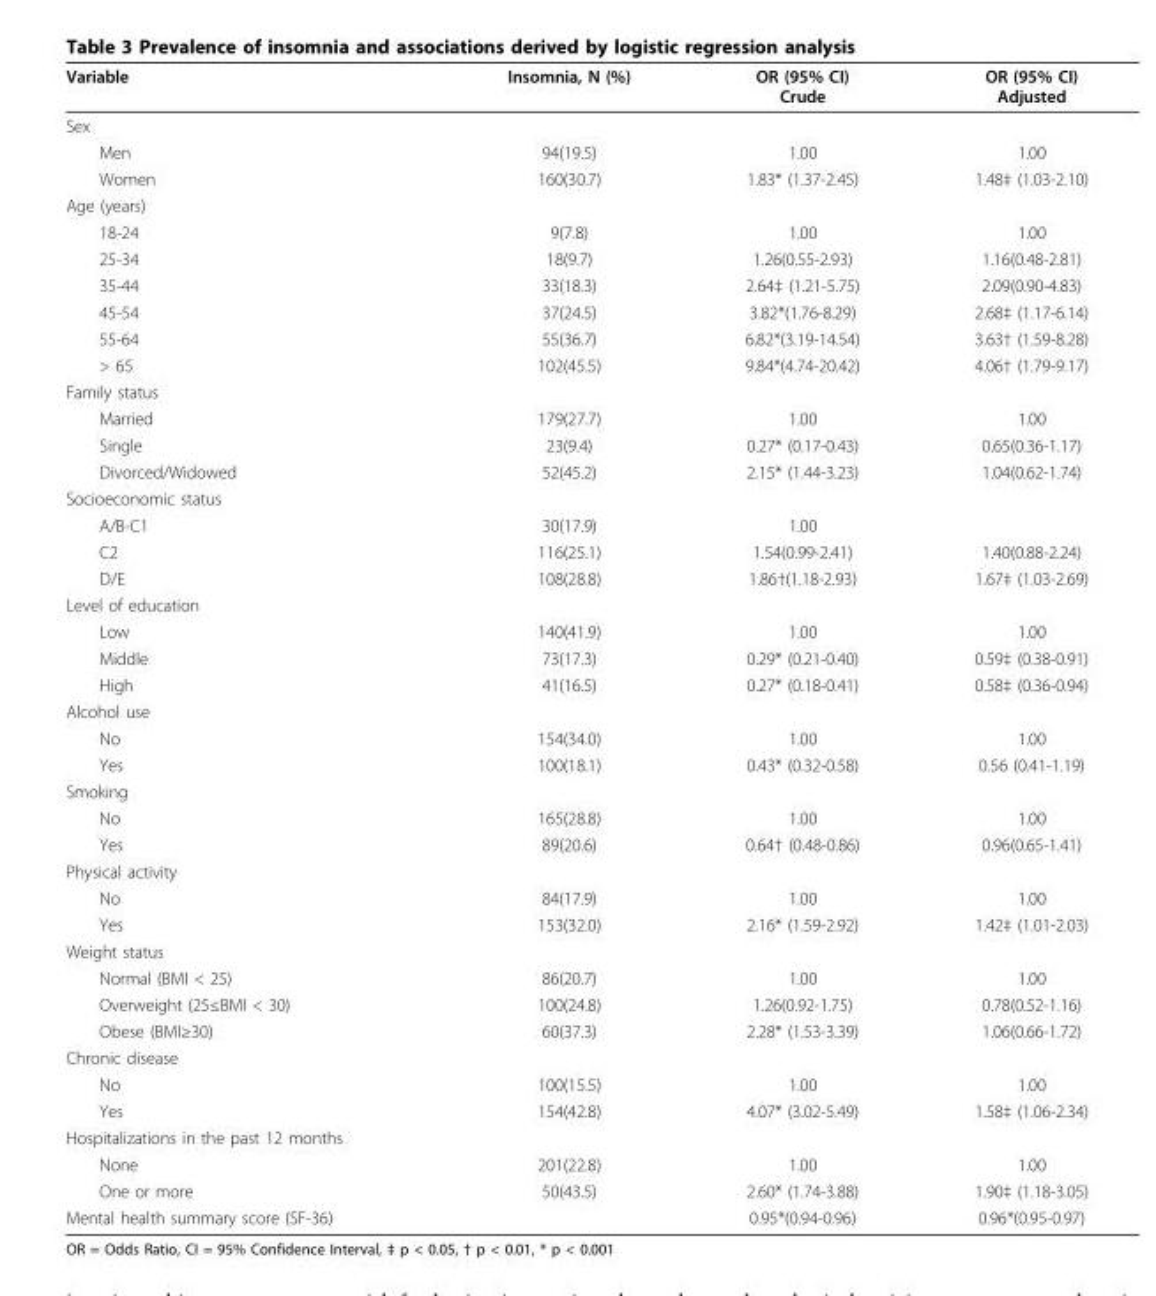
<table><thead><tr><td>Variable</td><td>Insomnia, N (%)</td><td>OR (95% CI) Crude</td><td>OR (95% CI) Adjusted</td></tr></thead><tbody><tr><td colspan="4">Sex</td></tr><tr><td>Men</td><td>94(19.5)</td><td>1.00</td><td>1.00</td></tr><tr><td>Women</td><td>160(30.7)</td><td>1.83* (1.37-2.45)</td><td>1.48‡ (1.03-2.10)</td></tr><tr><td colspan="4">Age (years)</td></tr><tr><td>18-24</td><td>9(7.8)</td><td>1.00</td><td>1.00</td></tr><tr><td>25-34</td><td>18(9.7)</td><td>1.26(0.55-2.93)</td><td>1.16(0.48-2.81)</td></tr><tr><td>35-44</td><td>33(18.3)</td><td>2.64‡ (1.21-5.75)</td><td>2.09(0.90-4.83)</td></tr><tr><td>45-54</td><td>37(24.5)</td><td>3.82*(1.76-8.29)</td><td>2.68‡ (1.17-6.14)</td></tr><tr><td>55-64</td><td>55(36.7)</td><td>6.82*(3.19-14.54)</td><td>3.63† (1.59-8.28)</td></tr><tr><td>&gt; 65</td><td>102(45.5)</td><td>9.84*(4.74-20.42)</td><td>4.06† (1.79-9.17)</td></tr><tr><td colspan="4">Family status</td></tr><tr><td>Married</td><td>179(27.7)</td><td>1.00</td><td>1.00</td></tr><tr><td>Single</td><td>23(9.4)</td><td>0.27* (0.17-0.43)</td><td>0.65(0.36-1.17)</td></tr><tr><td>Divorced/Widowed</td><td>52(45.2)</td><td>2.15* (1.44-3.23)</td><td>1.04(0.62-1.74)</td></tr><tr><td colspan="4">Socioeconomic status</td></tr><tr><td>A/B-C1</td><td>30(17.9)</td><td>1.00</td><td></td></tr><tr><td>C2</td><td>116(25.1)</td><td>1.54(0.99-2.41)</td><td>1.40(0.88-2.24)</td></tr><tr><td>D/E</td><td>108(28.8)</td><td>1.86†(1.18-2.93)</td><td>1.67‡ (1.03-2.69)</td></tr><tr><td colspan="4">Level of education</td></tr><tr><td>Low</td><td>140(41.9)</td><td>1.00</td><td>1.00</td></tr><tr><td>Middle</td><td>73(17.3)</td><td>0.29* (0.21-0.40)</td><td>0.59‡ (0.38-0.91)</td></tr><tr><td>High</td><td>41(16.5)</td><td>0.27* (0.18-0.41)</td><td>0.58‡ (0.36-0.94)</td></tr><tr><td colspan="4">Alcohol use</td></tr><tr><td>No</td><td>154(34.0)</td><td>1.00</td><td>1.00</td></tr><tr><td>Yes</td><td>100(18.1)</td><td>0.43* (0.32-0.58)</td><td>0.56 (0.41-1.19)</td></tr><tr><td colspan="4">Smoking</td></tr><tr><td>No</td><td>165(28.8)</td><td>1.00</td><td>1.00</td></tr><tr><td>Yes</td><td>89(20.6)</td><td>0.64† (0.48-0.86)</td><td>0.96(0.65-1.41)</td></tr><tr><td colspan="4">Physical activity</td></tr><tr><td>No</td><td>84(17.9)</td><td>1.00</td><td>1.00</td></tr><tr><td>Yes</td><td>153(32.0)</td><td>2.16* (1.59-2.92)</td><td>1.42‡ (1.01-2.03)</td></tr><tr><td colspan="4">Weight status</td></tr><tr><td>Normal (BMI &lt; 25)</td><td>86(20.7)</td><td>1.00</td><td>1.00</td></tr><tr><td>Overweight (25≤BMI &lt; 30)</td><td>100(24.8)</td><td>1.26(0.92-1.75)</td><td>0.78(0.52-1.16)</td></tr><tr><td>Obese (BMI≥30)</td><td>60(37.3)</td><td>2.28* (1.53-3.39)</td><td>1.06(0.66-1.72)</td></tr><tr><td colspan="4">Chronic disease</td></tr><tr><td>No</td><td>100(15.5)</td><td>1.00</td><td>1.00</td></tr><tr><td>Yes</td><td>154(42.8)</td><td>4.07* (3.02-5.49)</td><td>1.58‡ (1.06-2.34)</td></tr><tr><td colspan="4">Hospitalizations in the past 12 months</td></tr><tr><td>None</td><td>201(22.8)</td><td>1.00</td><td>1.00</td></tr><tr><td>One or more</td><td>50(43.5)</td><td>2.60* (1.74-3.88)</td><td>1.90‡ (1.18-3.05)</td></tr><tr><td>Mental health summary score (SF-36)</td><td></td><td>0.95*(0.94-0.96)</td><td>0.96*(0.95-0.97)</td></tr></tbody></table>